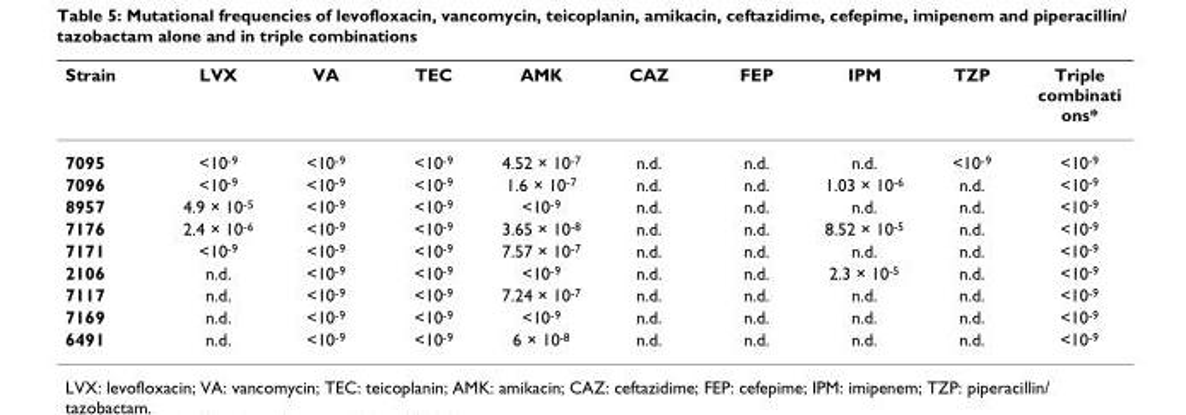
<table><thead><tr><td>Strain</td><td>LVX</td><td>VA</td><td>TEC</td><td>AMK</td><td>CAZ</td><td>FEP</td><td>IPM</td><td>TZP</td><td>Triple combinati ons*</td></tr></thead><tbody><tr><td>7095</td><td>&lt;10<sup>-9</sup></td><td>&lt;10<sup>-9</sup></td><td>&lt;10<sup>-9</sup></td><td>4.52 × 10<sup>-7</sup></td><td>n.d.</td><td>n.d.</td><td>n.d.</td><td>&lt;10<sup>-9</sup></td><td>&lt;10<sup>-9</sup></td></tr><tr><td>7096</td><td>&lt;10<sup>-9</sup></td><td>&lt;10<sup>-9</sup></td><td>&lt;10<sup>-9</sup></td><td>1.6 × 10<sup>-7</sup></td><td>n.d.</td><td>n.d.</td><td>1.03 × 10<sup>-6</sup></td><td>n.d.</td><td>&lt;10<sup>-9</sup></td></tr><tr><td>8957</td><td>4.9 × 10<sup>-5</sup></td><td>&lt;10<sup>-9</sup></td><td>&lt;10<sup>-9</sup></td><td>&lt;10<sup>-9</sup></td><td>n.d.</td><td>n.d.</td><td>n.d.</td><td>n.d.</td><td>&lt;10<sup>-9</sup></td></tr><tr><td>7176</td><td>2.4 × 10<sup>-6</sup></td><td>&lt;10<sup>-9</sup></td><td>&lt;10<sup>-9</sup></td><td>3.65 × 10<sup>-8</sup></td><td>n.d.</td><td>n.d.</td><td>8.52 × 10<sup>-5</sup></td><td>n.d.</td><td>&lt;10<sup>-9</sup></td></tr><tr><td>7171</td><td>&lt;10<sup>-9</sup></td><td>&lt;10<sup>-9</sup></td><td>&lt;10<sup>-9</sup></td><td>7.57 × 10<sup>-7</sup></td><td>n.d.</td><td>n.d.</td><td>n.d.</td><td>n.d.</td><td>&lt;10<sup>-9</sup></td></tr><tr><td>2106</td><td>n.d.</td><td>&lt;10<sup>-9</sup></td><td>&lt;10<sup>-9</sup></td><td>&lt;10<sup>-9</sup></td><td>n.d.</td><td>n.d.</td><td>2.3 × 10<sup>-5</sup></td><td>n.d.</td><td>&lt;10<sup>-9</sup></td></tr><tr><td>7117</td><td>n.d.</td><td>&lt;10<sup>-9</sup></td><td>&lt;10<sup>-9</sup></td><td>7.24 × 10<sup>-7</sup></td><td>n.d.</td><td>n.d.</td><td>n.d.</td><td>n.d.</td><td>&lt;10<sup>-9</sup></td></tr><tr><td>7169</td><td>n.d.</td><td>&lt;10<sup>-9</sup></td><td>&lt;10<sup>-9</sup></td><td>&lt;10<sup>-9</sup></td><td>n.d.</td><td>n.d.</td><td>n.d.</td><td>n.d.</td><td>&lt;10<sup>-9</sup></td></tr><tr><td>6491</td><td>n.d.</td><td>&lt;10<sup>-9</sup></td><td>&lt;10<sup>-9</sup></td><td>6 × 10<sup>-8</sup></td><td>n.d.</td><td>n.d.</td><td>n.d.</td><td>n.d.</td><td>&lt;10<sup>-9</sup></td></tr></tbody></table>